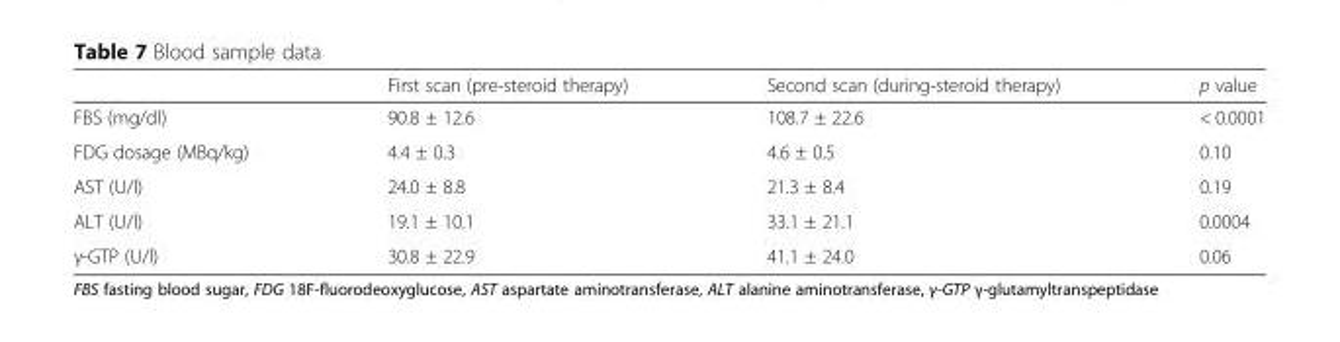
<table><thead><tr><td></td><td>First scan (pre-steroid therapy)</td><td>Second scan (during-steroid therapy)</td><td>p value</td></tr></thead><tbody><tr><td>FBS (mg/dl)</td><td>90.8 ± 12.6</td><td>108.7 ± 22.6</td><td>&lt; 0.0001</td></tr><tr><td>FDG dosage (MBq/kg)</td><td>4.4 ± 0.3</td><td>4.6 ± 0.5</td><td>0.10</td></tr><tr><td>AST (U/l)</td><td>24.0 ± 8.8</td><td>21.3 ± 8.4</td><td>0.19</td></tr><tr><td>ALT (U/l)</td><td>19.1 ± 10.1</td><td>33.1 ± 21.1</td><td>0.0004</td></tr><tr><td>γ-GTP (U/l)</td><td>30.8 ± 22.9</td><td>41.1 ± 24.0</td><td>0.06</td></tr></tbody></table>